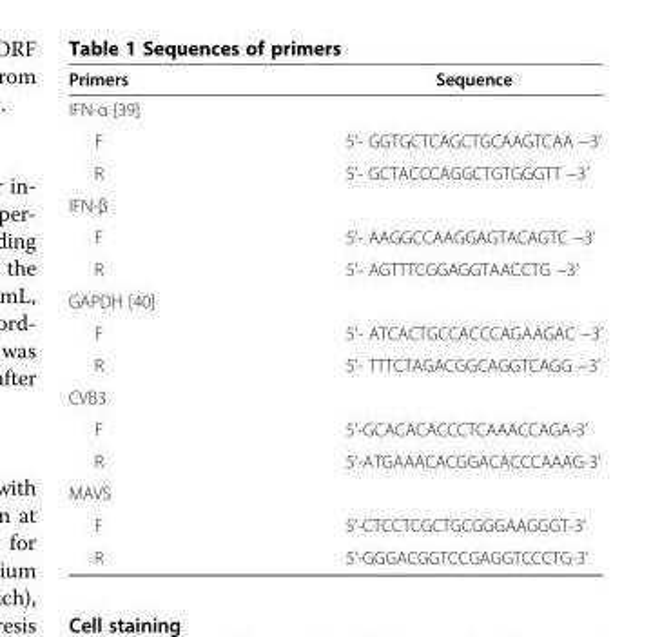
<table><thead><tr><td>Primers</td><td>Sequence</td></tr></thead><tbody><tr><td colspan="2">IFN-α [39]</td></tr><tr><td>F</td><td>5’- GGTGCTCAGCTGCAAGTCAA −3’</td></tr><tr><td>R</td><td>5’- GCTACCCAGGCTGTGGGTT −3’</td></tr><tr><td colspan="2">IFN-β</td></tr><tr><td>F</td><td>5’- AAGGCCAAGGAGTACAGTC −3’</td></tr><tr><td>R</td><td>5’- AGTTTCGGAGGTAACCTG −3’</td></tr><tr><td colspan="2">GAPDH [40]</td></tr><tr><td>F</td><td>5’- ATCACTGCCACCCAGAAGAC −3’</td></tr><tr><td>R</td><td>5’- TTTCTAGACGGCAGGTCAGG −3’</td></tr><tr><td colspan="2">CVB3</td></tr><tr><td>F</td><td>5’-GCACACACCCTCAAACCAGA-3’</td></tr><tr><td>R</td><td>5’-ATGAAACACGGACACCCAAAG-3’</td></tr><tr><td colspan="2">MAVS</td></tr><tr><td>F</td><td>5’-CTCCTCGCTGCGGGAAGGGT-3’</td></tr><tr><td>R</td><td>5’-GGGACGGTCCGAGGTCCCTG-3’</td></tr></tbody></table>